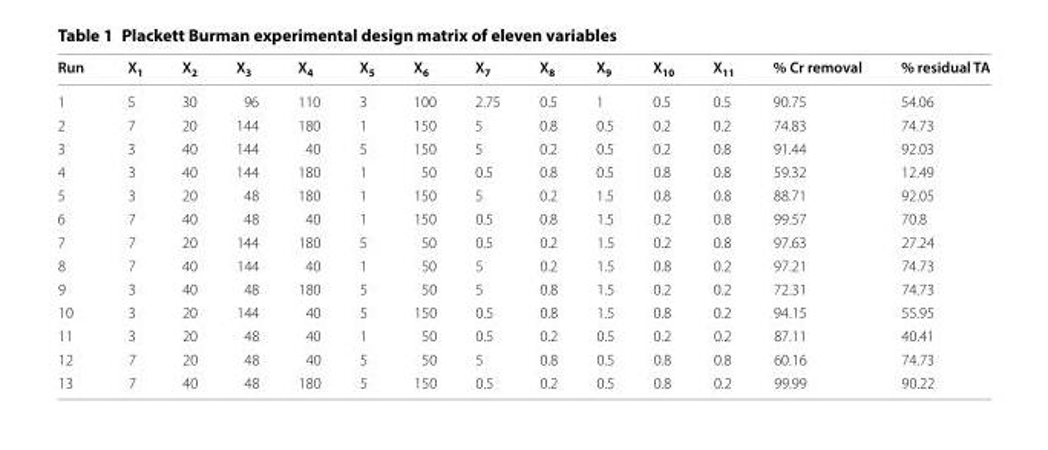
<table><thead><tr><td>Run</td><td>X<sub>1</sub></td><td>X<sub>2</sub></td><td>X<sub>3</sub></td><td>X<sub>4</sub></td><td>X<sub>5</sub></td><td>X<sub>6</sub></td><td>X<sub>7</sub></td><td>X<sub>8</sub></td><td>X<sub>9</sub></td><td>X<sub>10</sub></td><td>X<sub>11</sub></td><td>% Cr removal</td><td>% residual TA</td></tr></thead><tbody><tr><td>1</td><td>5</td><td>30</td><td>96</td><td>110</td><td>3</td><td>100</td><td>2.75</td><td>0.5</td><td>1</td><td>0.5</td><td>0.5</td><td>90.75</td><td>54.06</td></tr><tr><td>2</td><td>7</td><td>20</td><td>144</td><td>180</td><td>1</td><td>150</td><td>5</td><td>0.8</td><td>0.5</td><td>0.2</td><td>0.2</td><td>74.83</td><td>74.73</td></tr><tr><td>3</td><td>3</td><td>40</td><td>144</td><td>40</td><td>5</td><td>150</td><td>5</td><td>0.2</td><td>0.5</td><td>0.2</td><td>0.8</td><td>91.44</td><td>92.03</td></tr><tr><td>4</td><td>3</td><td>40</td><td>144</td><td>180</td><td>1</td><td>50</td><td>0.5</td><td>0.8</td><td>0.5</td><td>0.8</td><td>0.8</td><td>59.32</td><td>12.49</td></tr><tr><td>5</td><td>3</td><td>20</td><td>48</td><td>180</td><td>1</td><td>150</td><td>5</td><td>0.2</td><td>1.5</td><td>0.8</td><td>0.8</td><td>88.71</td><td>92.05</td></tr><tr><td>6</td><td>7</td><td>40</td><td>48</td><td>40</td><td>1</td><td>150</td><td>0.5</td><td>0.8</td><td>1.5</td><td>0.2</td><td>0.8</td><td>99.57</td><td>70.8</td></tr><tr><td>7</td><td>7</td><td>20</td><td>144</td><td>180</td><td>5</td><td>50</td><td>0.5</td><td>0.2</td><td>1.5</td><td>0.2</td><td>0.8</td><td>97.63</td><td>27.24</td></tr><tr><td>8</td><td>7</td><td>40</td><td>144</td><td>40</td><td>1</td><td>50</td><td>5</td><td>0.2</td><td>1.5</td><td>0.8</td><td>0.2</td><td>97.21</td><td>74.73</td></tr><tr><td>9</td><td>3</td><td>40</td><td>48</td><td>180</td><td>5</td><td>50</td><td>5</td><td>0.8</td><td>1.5</td><td>0.2</td><td>0.2</td><td>72.31</td><td>74.73</td></tr><tr><td>10</td><td>3</td><td>20</td><td>144</td><td>40</td><td>5</td><td>150</td><td>0.5</td><td>0.8</td><td>1.5</td><td>0.8</td><td>0.2</td><td>94.15</td><td>55.95</td></tr><tr><td>11</td><td>3</td><td>20</td><td>48</td><td>40</td><td>1</td><td>50</td><td>0.5</td><td>0.2</td><td>0.5</td><td>0.2</td><td>0.2</td><td>87.11</td><td>40.41</td></tr><tr><td>12</td><td>7</td><td>20</td><td>48</td><td>40</td><td>5</td><td>50</td><td>5</td><td>0.8</td><td>0.5</td><td>0.8</td><td>0.8</td><td>60.16</td><td>74.73</td></tr><tr><td>13</td><td>7</td><td>40</td><td>48</td><td>180</td><td>5</td><td>150</td><td>0.5</td><td>0.2</td><td>0.5</td><td>0.8</td><td>0.2</td><td>99.99</td><td>90.22</td></tr></tbody></table>